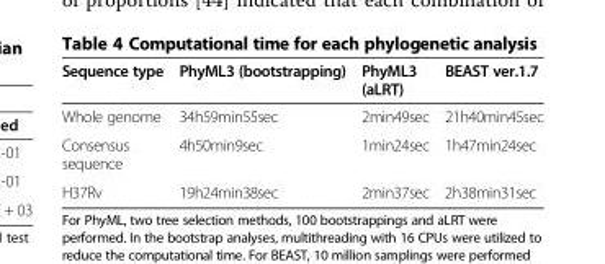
<table><thead><tr><td>Sequence type</td><td>PhyML3 (bootstrapping)</td><td>PhyML3 (aLRT)</td><td>BEAST ver.1.7</td></tr></thead><tbody><tr><td>Whole genome</td><td>34h59min55sec</td><td>2min49sec</td><td>21h40min45sec</td></tr><tr><td>Consensus sequence</td><td>4h50min9sec</td><td>1min24sec</td><td>1h47min24sec</td></tr><tr><td>H37Rv</td><td>19h24min38sec</td><td>2min37sec</td><td>2h38min31sec</td></tr></tbody></table>